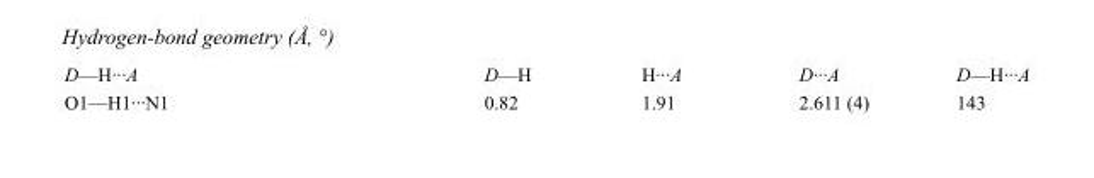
<table><tbody><tr><td>D—H···A</td><td>D—H</td><td>H···A</td><td>D···A</td><td>D—H···A</td></tr><tr><td>O1—H1···N1</td><td>0.82</td><td>1.91</td><td>2.611 (4)</td><td>143</td></tr></tbody></table>